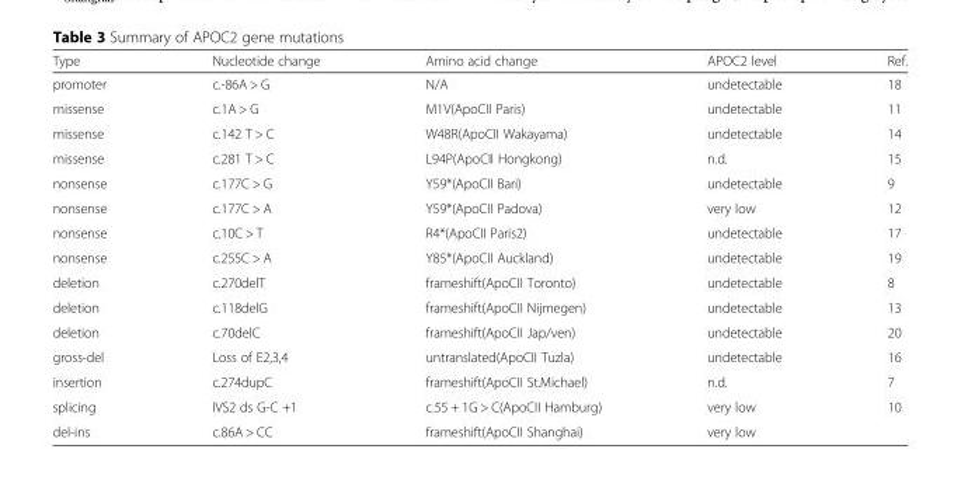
<table><thead><tr><td>Type</td><td>Nucleotide change</td><td>Amino acid change</td><td>APOC2 level</td><td>Ref.</td></tr></thead><tbody><tr><td>promoter</td><td>c.-86A &gt; G</td><td>N/A</td><td>undetectable</td><td>18</td></tr><tr><td>missense</td><td>c.1A &gt; G</td><td>M1V(ApoCII Paris)</td><td>undetectable</td><td>11</td></tr><tr><td>missense</td><td>c.142 T &gt; C</td><td>W48R(ApoCII Wakayama)</td><td>undetectable</td><td>14</td></tr><tr><td>missense</td><td>c.281 T &gt; C</td><td>L94P(ApoCII Hongkong)</td><td>n.d.</td><td>15</td></tr><tr><td>nonsense</td><td>c.177C &gt; G</td><td>Y59*(ApoCII Bari)</td><td>undetectable</td><td>9</td></tr><tr><td>nonsense</td><td>c.177C &gt; A</td><td>Y59*(ApoCII Padova)</td><td>very low</td><td>12</td></tr><tr><td>nonsense</td><td>c.10C &gt; T</td><td>R4*(ApoCII Paris2)</td><td>undetectable</td><td>17</td></tr><tr><td>nonsense</td><td>c.255C &gt; A</td><td>Y85*(ApoCII Auckland)</td><td>undetectable</td><td>19</td></tr><tr><td>deletion</td><td>c.270delT</td><td>frameshift(ApoCII Toronto)</td><td>undetectable</td><td>8</td></tr><tr><td>deletion</td><td>c.118delG</td><td>frameshift(ApoCII Nijmegen)</td><td>undetectable</td><td>13</td></tr><tr><td>deletion</td><td>c.70delC</td><td>frameshift(ApoCII Jap/ven)</td><td>undetectable</td><td>20</td></tr><tr><td>gross-del</td><td>Loss of E2,3,4</td><td>untranslated(ApoCII Tuzla)</td><td>undetectable</td><td>16</td></tr><tr><td>insertion</td><td>c.274dupC</td><td>frameshift(ApoCII St.Michael)</td><td>n.d.</td><td>7</td></tr><tr><td>splicing</td><td>IVS2 ds G-C +1</td><td>c.55 + 1G &gt; C(ApoCII Hamburg)</td><td>very low</td><td>10</td></tr><tr><td>del-ins</td><td>c.86A &gt; CC</td><td>frameshift(ApoCII Shanghai)</td><td>very low</td><td></td></tr></tbody></table>